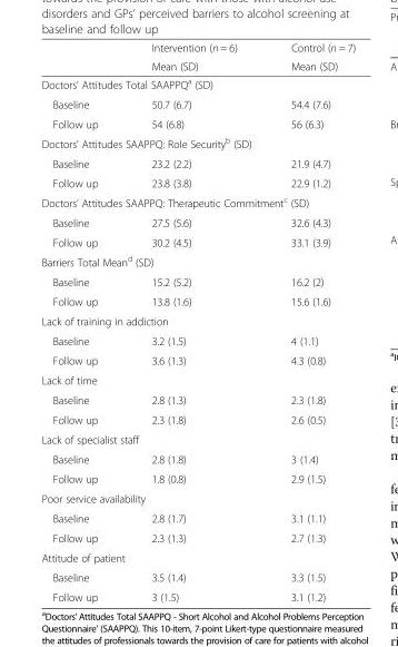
<table><thead><tr><td rowspan="2"></td><td rowspan="2">Intervention (n = 6) Mean (SD)</td><td rowspan="2">Control (n = 7) Mean (SD)</td></tr><tr></tr></thead><tbody><tr><td colspan="3">Doctors&#x27; Attitudes Total SAAPPQ<sup>a</sup> (SD)</td></tr><tr><td>Baseline</td><td>50.7 (6.7)</td><td>54.4 (7.6)</td></tr><tr><td>Follow up</td><td>54 (6.8)</td><td>56 (6.3)</td></tr><tr><td colspan="3">Doctors&#x27; Attitudes SAAPPQ: Role Security<sup>b</sup> (SD)</td></tr><tr><td>Baseline</td><td>23.2 (2.2)</td><td>21.9 (4.7)</td></tr><tr><td>Follow up</td><td>23.8 (3.8)</td><td>22.9 (1.2)</td></tr><tr><td colspan="3">Doctors’ Attitudes SAAPPQ: Therapeutic Commitment<sup>c</sup> (SD)</td></tr><tr><td>Baseline</td><td>27.5 (5.6)</td><td>32.6 (4.3)</td></tr><tr><td>Follow up</td><td>30.2 (4.5)</td><td>33.1 (3.9)</td></tr><tr><td colspan="3">Barriers Total Mean<sup>d</sup> (SD)</td></tr><tr><td>Baseline</td><td>15.2 (5.2)</td><td>16.2 (2)</td></tr><tr><td>Follow up</td><td>13.8 (1.6)</td><td>15.6 (1.6)</td></tr><tr><td colspan="3">Lack of training in addiction</td></tr><tr><td>Baseline</td><td>3.2 (1.5)</td><td>4 (1.1)</td></tr><tr><td>Follow up</td><td>3.6 (1.3)</td><td>4.3 (0.8)</td></tr><tr><td colspan="3">Lack of time</td></tr><tr><td>Baseline</td><td>2.8 (1.3)</td><td>2.3 (1.8)</td></tr><tr><td>Follow up</td><td>2.3 (1.8)</td><td>2.6 (0.5)</td></tr><tr><td colspan="3">Lack of specialist staff</td></tr><tr><td>Baseline</td><td>2.8 (1.8)</td><td>3 (1.4)</td></tr><tr><td>Follow up</td><td>1.8 (0.8)</td><td>2.9 (1.5)</td></tr><tr><td colspan="3">Poor service availability</td></tr><tr><td>Baseline</td><td>2.8 (1.7)</td><td>3.1 (1.1)</td></tr><tr><td>Follow up</td><td>2.3 (1.3)</td><td>2.7 (1.3)</td></tr><tr><td colspan="3">Attitude of patient</td></tr><tr><td>Baseline</td><td>3.5 (1.4)</td><td>3.3 (1.5)</td></tr><tr><td>Follow up</td><td>3 (1.5)</td><td>3.1 (1.2)</td></tr></tbody></table>